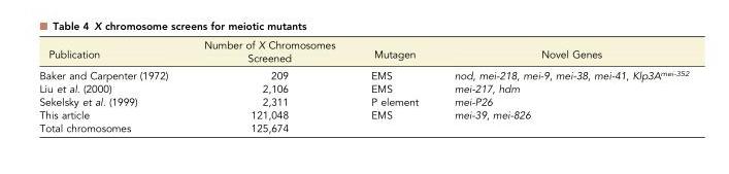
<table><thead><tr><td>Publication</td><td>Number of X Chromosomes Screened</td><td>Mutagen</td><td>Novel Genes</td></tr></thead><tbody><tr><td>Baker and Carpenter (1972)</td><td>209</td><td>EMS</td><td>nod, mei-218, mei-9, mei-38, mei-41, Klp3A<sup>mei-352</sup></td></tr><tr><td>Liu et al. (2000)</td><td>2,106</td><td>EMS</td><td>mei-217, hdm</td></tr><tr><td>Sekelsky et al. (1999)</td><td>2,311</td><td>P element</td><td>mei-P26</td></tr><tr><td>This article</td><td>121,048</td><td>EMS</td><td>mei-39, mei-826</td></tr><tr><td>Total chromosomes</td><td>125,674</td><td></td><td></td></tr></tbody></table>